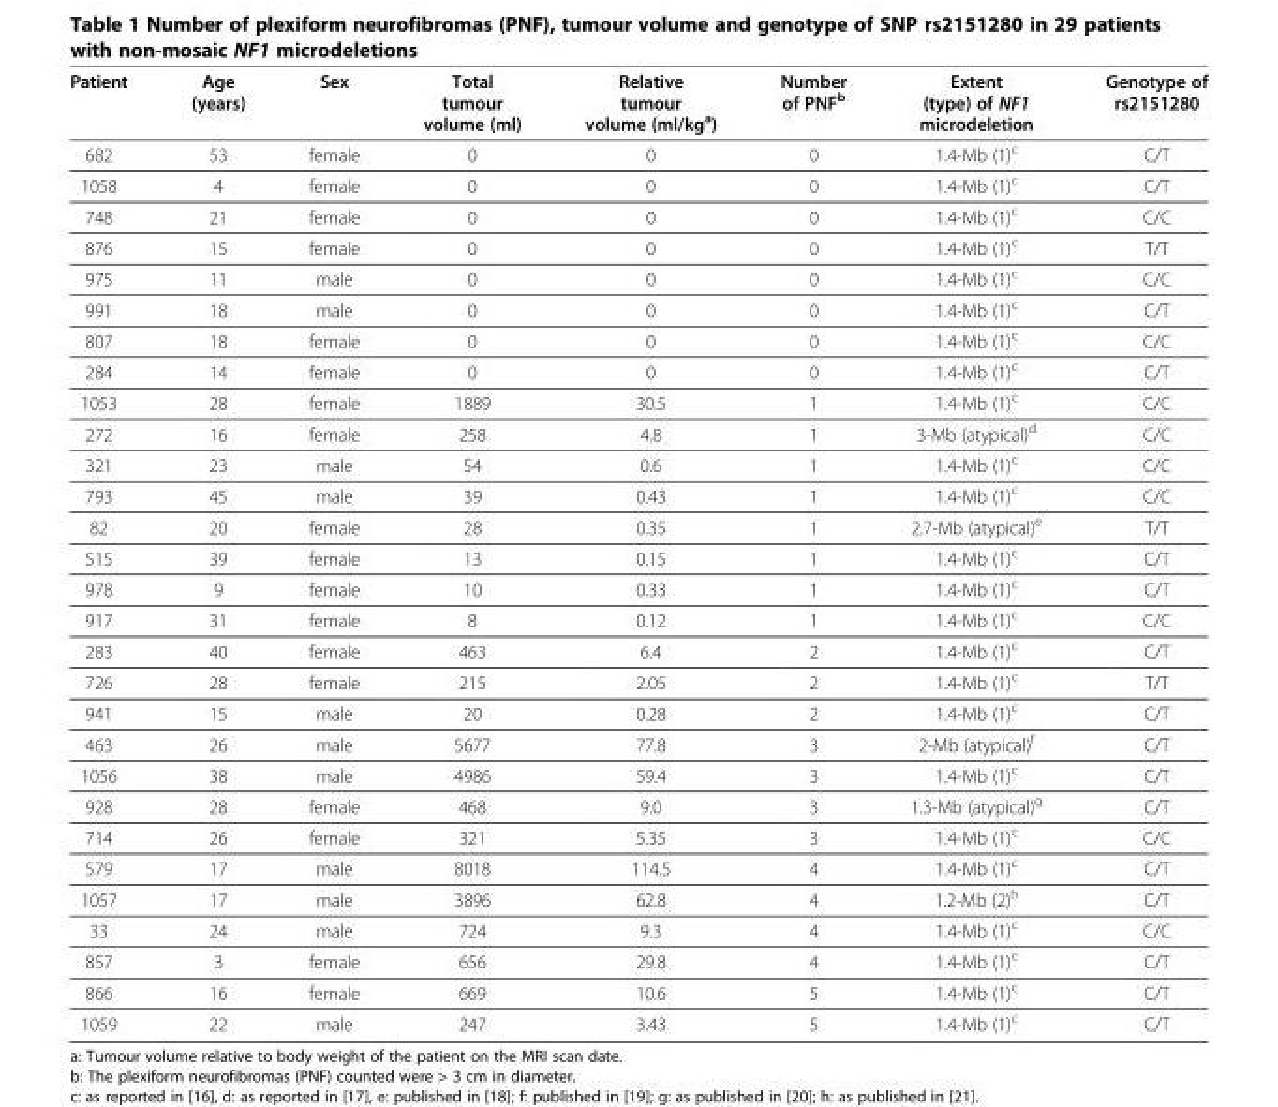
<table><thead><tr><td>Patient</td><td>Age (years)</td><td>Sex</td><td>Total tumour volume (ml)</td><td>Relative tumour volume (ml/kg<sup>a</sup>)</td><td>Number of PNF<sup>b</sup></td><td>Extent (type) of NF1 microdeletion</td><td>Genotype of rs2151280</td></tr></thead><tbody><tr><td>682</td><td>53</td><td>female</td><td>0</td><td>0</td><td>0</td><td>1.4-Mb (1)<sup>c</sup></td><td>C/T</td></tr><tr><td>1058</td><td>4</td><td>female</td><td>0</td><td>0</td><td>0</td><td>1.4-Mb (1)<sup>c</sup></td><td>C/T</td></tr><tr><td>748</td><td>21</td><td>female</td><td>0</td><td>0</td><td>0</td><td>1.4-Mb (1)<sup>c</sup></td><td>C/C</td></tr><tr><td>876</td><td>15</td><td>female</td><td>0</td><td>0</td><td>0</td><td>1.4-Mb (1)<sup>c</sup></td><td>T/T</td></tr><tr><td>975</td><td>11</td><td>male</td><td>0</td><td>0</td><td>0</td><td>1.4-Mb (1)<sup>c</sup></td><td>C/C</td></tr><tr><td>991</td><td>18</td><td>male</td><td>0</td><td>0</td><td>0</td><td>1.4-Mb (1)<sup>c</sup></td><td>C/T</td></tr><tr><td>807</td><td>18</td><td>female</td><td>0</td><td>0</td><td>0</td><td>1.4-Mb (1)<sup>c</sup></td><td>C/C</td></tr><tr><td>284</td><td>14</td><td>female</td><td>0</td><td>0</td><td>0</td><td>1.4-Mb (1)<sup>c</sup></td><td>C/T</td></tr><tr><td>1053</td><td>28</td><td>female</td><td>1889</td><td>30.5</td><td>1</td><td>1.4-Mb (1)<sup>c</sup></td><td>C/C</td></tr><tr><td>272</td><td>16</td><td>female</td><td>258</td><td>4.8</td><td>1</td><td>3-Mb (atypical)<sup>d</sup></td><td>C/C</td></tr><tr><td>321</td><td>23</td><td>male</td><td>54</td><td>0.6</td><td>1</td><td>1.4-Mb (1)<sup>c</sup></td><td>C/C</td></tr><tr><td>793</td><td>45</td><td>male</td><td>39</td><td>0.43</td><td>1</td><td>1.4-Mb (1)<sup>c</sup></td><td>C/C</td></tr><tr><td>82</td><td>20</td><td>female</td><td>28</td><td>0.35</td><td>1</td><td>2.7-Mb (atypical)<sup>e</sup></td><td>T/T</td></tr><tr><td>515</td><td>39</td><td>female</td><td>13</td><td>0.15</td><td>1</td><td>1.4-Mb (1)<sup>c</sup></td><td>C/T</td></tr><tr><td>978</td><td>9</td><td>female</td><td>10</td><td>0.33</td><td>1</td><td>1.4-Mb (1)<sup>c</sup></td><td>C/T</td></tr><tr><td>917</td><td>31</td><td>female</td><td>8</td><td>0.12</td><td>1</td><td>1.4-Mb (1)<sup>c</sup></td><td>C/C</td></tr><tr><td>283</td><td>40</td><td>female</td><td>463</td><td>6.4</td><td>2</td><td>1.4-Mb (1)<sup>c</sup></td><td>C/T</td></tr><tr><td>726</td><td>28</td><td>female</td><td>215</td><td>2.05</td><td>2</td><td>1.4-Mb (1)<sup>c</sup></td><td>T/T</td></tr><tr><td>941</td><td>15</td><td>male</td><td>20</td><td>0.28</td><td>2</td><td>1.4-Mb (1)<sup>c</sup></td><td>C/T</td></tr><tr><td>463</td><td>26</td><td>male</td><td>5677</td><td>77.8</td><td>3</td><td>2-Mb (atypical)<sup>f</sup></td><td>C/T</td></tr><tr><td>1056</td><td>38</td><td>male</td><td>4986</td><td>59.4</td><td>3</td><td>1.4-Mb (1)<sup>c</sup></td><td>C/T</td></tr><tr><td>928</td><td>28</td><td>female</td><td>468</td><td>9.0</td><td>3</td><td>1.3-Mb (atypical)<sup>g</sup></td><td>C/T</td></tr><tr><td>714</td><td>26</td><td>female</td><td>321</td><td>5.35</td><td>3</td><td>1.4-Mb (1)<sup>c</sup></td><td>C/C</td></tr><tr><td>579</td><td>17</td><td>male</td><td>8018</td><td>114.5</td><td>4</td><td>1.4-Mb (1)<sup>c</sup></td><td>C/T</td></tr><tr><td>1057</td><td>17</td><td>male</td><td>3896</td><td>62.8</td><td>4</td><td>1.2-Mb (2)<sup>h</sup></td><td>C/T</td></tr><tr><td>33</td><td>24</td><td>male</td><td>724</td><td>9.3</td><td>4</td><td>1.4-Mb (1)<sup>c</sup></td><td>C/C</td></tr><tr><td>857</td><td>3</td><td>female</td><td>656</td><td>29.8</td><td>4</td><td>1.4-Mb (1)<sup>c</sup></td><td>C/T</td></tr><tr><td>866</td><td>16</td><td>female</td><td>669</td><td>10.6</td><td>5</td><td>1.4-Mb (1)<sup>c</sup></td><td>C/T</td></tr><tr><td>1059</td><td>22</td><td>male</td><td>247</td><td>3.43</td><td>5</td><td>1.4-Mb (1)<sup>c</sup></td><td>C/T</td></tr></tbody></table>